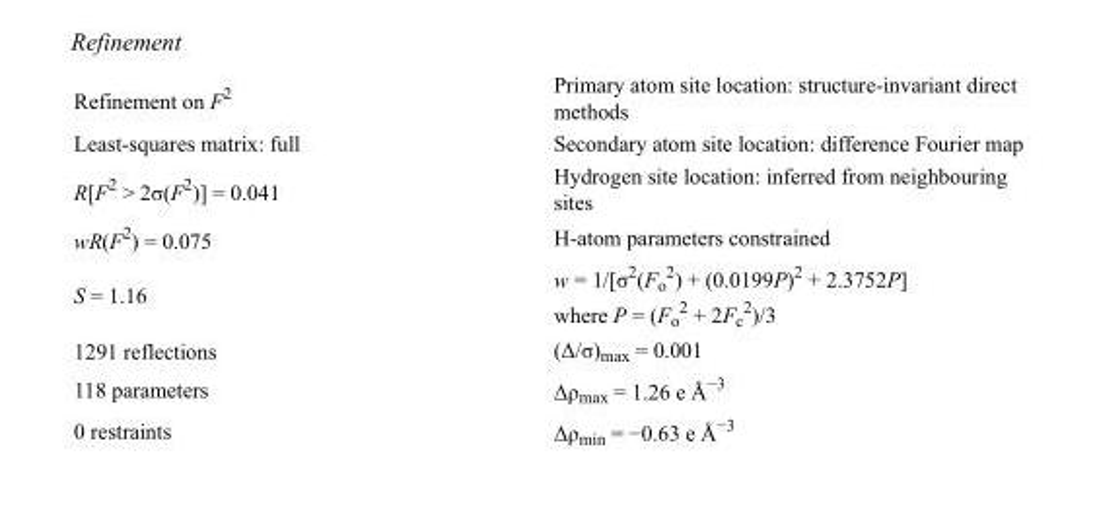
<table><tbody><tr><td>Refinement on F<sup>2</sup></td><td>Primary atom site location: structure-invariant direct methods</td></tr><tr><td>Least-squares matrix: full</td><td>Secondary atom site location: difference Fourier map</td></tr><tr><td>R[F<sup>2</sup> &gt; 2σ(F<sup>2</sup>)] = 0.041</td><td>Hydrogen site location: inferred from neighbouring sites</td></tr><tr><td>wR(F<sup>2</sup>) = 0.075</td><td>H-atom parameters constrained</td></tr><tr><td>S = 1.16</td><td>w = 1/[σ<sup>2</sup>(F<sub>o</sub> <sup>2</sup>) + (0.0199P)<sup>2</sup> + 2.3752P] where P = (F<sub>o</sub> <sup>2</sup> + 2F<sub>c</sub> <sup>2</sup>)/3</td></tr><tr><td>1291 reflections</td><td>(Δ/σ)<sub>max</sub> = 0.001</td></tr><tr><td>118 parameters</td><td>Δρ<sub>max</sub> = 1.26 e Å<sup>−3</sup></td></tr><tr><td>0 restraints</td><td>Δρ<sub>min</sub> = −0.63 e Å<sup>−3</sup></td></tr></tbody></table>